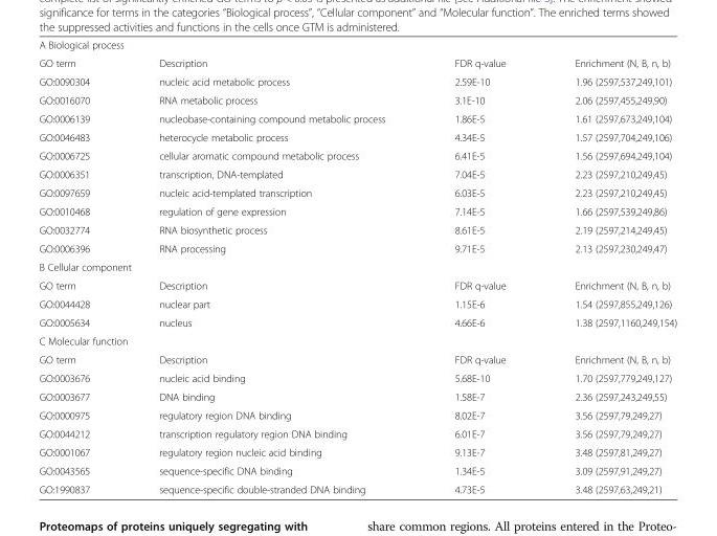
<table><tbody><tr><td colspan="4">A Biological process</td></tr><tr><td>GO term</td><td>Description</td><td>FDR q-value</td><td>Enrichment (N, B, n, b)</td></tr><tr><td>GO:0090304</td><td>nucleic acid metabolic process</td><td>2.59E-10</td><td>1.96 (2597,537,249,101)</td></tr><tr><td>GO:0016070</td><td>RNA metabolic process</td><td>3.1E-10</td><td>2.06 (2597,455,249,90)</td></tr><tr><td>GO:0006139</td><td>nucleobase-containing compound metabolic process</td><td>1.86E-5</td><td>1.61 (2597,673,249,104)</td></tr><tr><td>GO:0046483</td><td>heterocycle metabolic process</td><td>4.34E-5</td><td>1.57 (2597,704,249,106)</td></tr><tr><td>GO:0006725</td><td>cellular aromatic compound metabolic process</td><td>6.41E-5</td><td>1.56 (2597,694,249,104)</td></tr><tr><td>GO:0006351</td><td>transcription, DNA-templated</td><td>7.04E-5</td><td>2.23 (2597,210,249,45)</td></tr><tr><td>GO:0097659</td><td>nucleic acid-templated transcription</td><td>6.03E-5</td><td>2.23 (2597,210,249,45)</td></tr><tr><td>GO:0010468</td><td>regulation of gene expression</td><td>7.14E-5</td><td>1.66 (2597,539,249,86)</td></tr><tr><td>GO:0032774</td><td>RNA biosynthetic process</td><td>8.61E-5</td><td>2.19 (2597,214,249,45)</td></tr><tr><td>GO:0006396</td><td>RNA processing</td><td>9.71E-5</td><td>2.13 (2597,230,249,47)</td></tr><tr><td colspan="4">B Cellular component</td></tr><tr><td>GO term</td><td>Description</td><td>FDR q-value</td><td>Enrichment (N, B, n, b)</td></tr><tr><td>GO:0044428</td><td>nuclear part</td><td>1.15E-6</td><td>1.54 (2597,855,249,126)</td></tr><tr><td>GO:0005634</td><td>nucleus</td><td>4.66E-6</td><td>1.38 (2597,1160,249,154)</td></tr><tr><td colspan="4">C Molecular function</td></tr><tr><td>GO term</td><td>Description</td><td>FDR q-value</td><td>Enrichment (N, B, n, b)</td></tr><tr><td>GO:0003676</td><td>nucleic acid binding</td><td>5.68E-10</td><td>1.70 (2597,779,249,127)</td></tr><tr><td>GO:0003677</td><td>DNA binding</td><td>1.58E-7</td><td>2.36 (2597,243,249,55)</td></tr><tr><td>GO:0000975</td><td>regulatory region DNA binding</td><td>8.02E-7</td><td>3.56 (2597,79,249,27)</td></tr><tr><td>GO:0044212</td><td>transcription regulatory region DNA binding</td><td>6.01E-7</td><td>3.56 (2597,79,249,27)</td></tr><tr><td>GO:0001067</td><td>regulatory region nucleic acid binding</td><td>9.13E-7</td><td>3.48 (2597,81,249,27)</td></tr><tr><td>GO:0043565</td><td>sequence-specific DNA binding</td><td>1.34E-5</td><td>3.09 (2597,91,249,27)</td></tr><tr><td>GO:1990837</td><td>sequence-specific double-stranded DNA binding</td><td>4.73E-5</td><td>3.48 (2597,63,249,21)</td></tr></tbody></table>